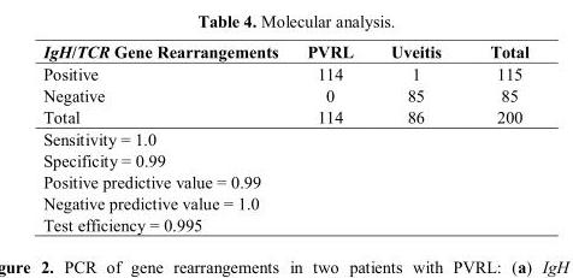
<table><thead><tr><td>IgH/TCR Gene Rearrangements</td><td>PVRL</td><td>Uveitis</td><td>Total</td></tr></thead><tbody><tr><td>Positive</td><td>114</td><td>1</td><td>115</td></tr><tr><td>Negative</td><td>0</td><td>85</td><td>85</td></tr><tr><td>Total</td><td>114</td><td>86</td><td>200</td></tr><tr><td colspan="4">Sensitivity = 1.0</td></tr><tr><td colspan="4">Specificity = 0.99</td></tr><tr><td colspan="4">Positive predictive value = 0.99</td></tr><tr><td colspan="4">Negative predictive value = 1.0</td></tr><tr><td>Test efficiency = 0.995</td><td></td><td></td><td></td></tr></tbody></table>